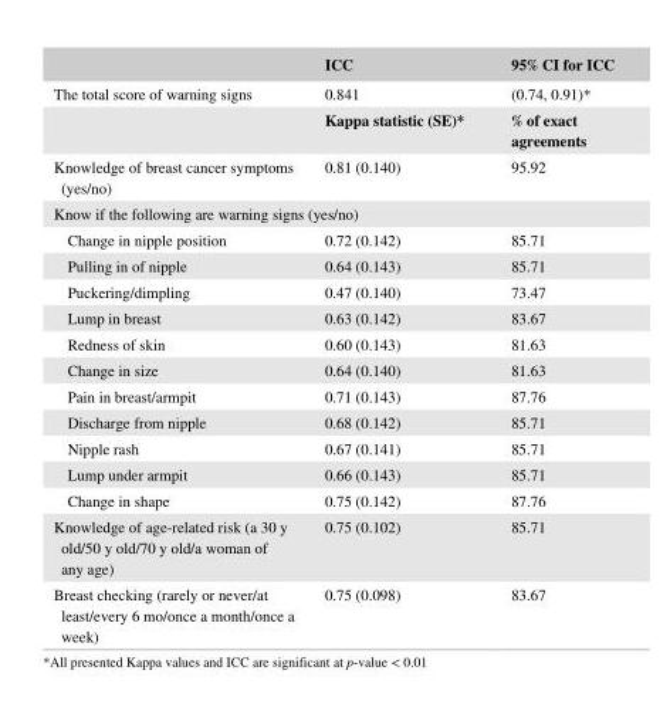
<table><thead><tr><td></td><td>ICC</td><td>95% CI for ICC</td></tr></thead><tbody><tr><td rowspan="2">The total score of warning signs</td><td>0.841</td><td>(0.74, 0.91)*</td></tr><tr><td>Kappa statistic (SE)*</td><td>% of exact agreements</td></tr><tr><td>Knowledge of breast cancer symptoms (yes/no)</td><td>0.81 (0.140)</td><td>95.92</td></tr><tr><td colspan="3">Know if the following are warning signs (yes/no)</td></tr><tr><td>Change in nipple position</td><td>0.72 (0.142)</td><td>85.71</td></tr><tr><td>Pulling in of nipple</td><td>0.64 (0.143)</td><td>85.71</td></tr><tr><td>Puckering/dimpling</td><td>0.47 (0.140)</td><td>73.47</td></tr><tr><td>Lump in breast</td><td>0.63 (0.142)</td><td>83.67</td></tr><tr><td>Redness of skin</td><td>0.60 (0.143)</td><td>81.63</td></tr><tr><td>Change in size</td><td>0.64 (0.140)</td><td>81.63</td></tr><tr><td>Pain in breast/armpit</td><td>0.71 (0.143)</td><td>87.76</td></tr><tr><td>Discharge from nipple</td><td>0.68 (0.142)</td><td>85.71</td></tr><tr><td>Nipple rash</td><td>0.67 (0.141)</td><td>85.71</td></tr><tr><td>Lump under armpit</td><td>0.66 (0.143)</td><td>85.71</td></tr><tr><td>Change in shape</td><td>0.75 (0.142)</td><td>87.76</td></tr><tr><td>Knowledge of age- related risk (a 30 y old/50 y old/70 y old/a woman of any age)</td><td>0.75 (0.102)</td><td>85.71</td></tr><tr><td>Breast checking (rarely or never/at least/every 6 mo/once a month/once a week)</td><td>0.75 (0.098)</td><td>83.67</td></tr></tbody></table>